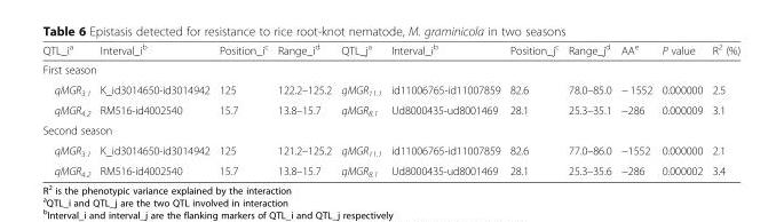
<table><thead><tr><td>QTL_i<sup>a</sup></td><td>Interval_i<sup>b</sup></td><td>Position_i<sup>c</sup></td><td>Range_i<sup>d</sup></td><td>QTL_j<sup>a</sup></td><td>Interval_i<sup>b</sup></td><td>Position_j<sup>c</sup></td><td>Range_j<sup>d</sup></td><td>AA<sup>e</sup></td><td>P value</td><td>R<sup>2</sup> (%)</td></tr></thead><tbody><tr><td colspan="11">First season</td></tr><tr><td>qMGR<sub>3.1</sub></td><td>K_id3014650-id3014942</td><td>125</td><td>122.2–125.2</td><td>qMGR<sub>11.1</sub></td><td>id11006765-id11007859</td><td>82.6</td><td>78.0–85.0</td><td>− 1552</td><td>0.000000</td><td>2.5</td></tr><tr><td>qMGR<sub>4.2</sub></td><td>RM516-id4002540</td><td>15.7</td><td>13.8–15.7</td><td>qMGR<sub>8.1</sub></td><td>Ud8000435-ud8001469</td><td>28.1</td><td>25.3–35.1</td><td>−286</td><td>0.000009</td><td>3.1</td></tr><tr><td colspan="11">Second season</td></tr><tr><td>qMGR<sub>3.1</sub></td><td>K_id3014650-id3014942</td><td>125</td><td>121.2–125.2</td><td>qMGR<sub>11.1</sub></td><td>id11006765-id11007859</td><td>82.6</td><td>77.0–86.0</td><td>−1552</td><td>0.000000</td><td>2.1</td></tr><tr><td>qMGR<sub>4.2</sub></td><td>RM516-id4002540</td><td>15.7</td><td>13.8–15.7</td><td>qMGR<sub>8.1</sub></td><td>Ud8000435-ud8001469</td><td>28.1</td><td>25.3–35.6</td><td>−286</td><td>0.000002</td><td>3.4</td></tr></tbody></table>